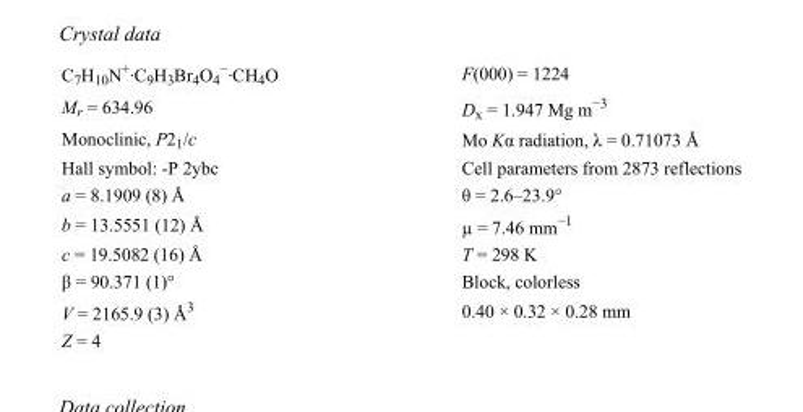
<table><tbody><tr><td>C<sub>7</sub>H<sub>10</sub>N<sup>+</sup>·C<sub>9</sub>H<sub>3</sub>Br<sub>4</sub>O<sub>4</sub> <sup>−</sup>·CH<sub>4</sub>O</td><td>F(000) = 1224</td></tr><tr><td>M<sub>r</sub> = 634.96</td><td>D<sub>x</sub> = 1.947 Mg m<sup>−3</sup></td></tr><tr><td>Monoclinic, P2<sub>1</sub>/c</td><td>Mo Kα radiation, λ = 0.71073 Å</td></tr><tr><td>Hall symbol: -P 2ybc</td><td>Cell parameters from 2873 reflections</td></tr><tr><td>a = 8.1909 (8) Å</td><td>θ = 2.6–23.9°</td></tr><tr><td>b = 13.5551 (12) Å</td><td>µ = 7.46 mm<sup>−1</sup></td></tr><tr><td>c = 19.5082 (16) Å</td><td>T = 298 K</td></tr><tr><td>β = 90.371 (1)°</td><td>Block, colorless</td></tr><tr><td>V = 2165.9 (3) Å<sup>3</sup></td><td>0.40 × 0.32 × 0.28 mm</td></tr><tr><td>Z = 4</td><td></td></tr></tbody></table>